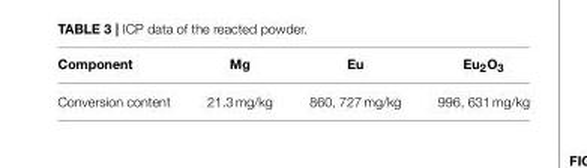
<table><thead><tr><td>Component</td><td>Mg</td><td>Eu</td><td>Eu<sub>2</sub>O<sub>3</sub></td></tr></thead><tbody><tr><td>Conversion content</td><td>21.3 mg/kg</td><td>860, 727 mg/kg</td><td>996, 631 mg/kg</td></tr></tbody></table>